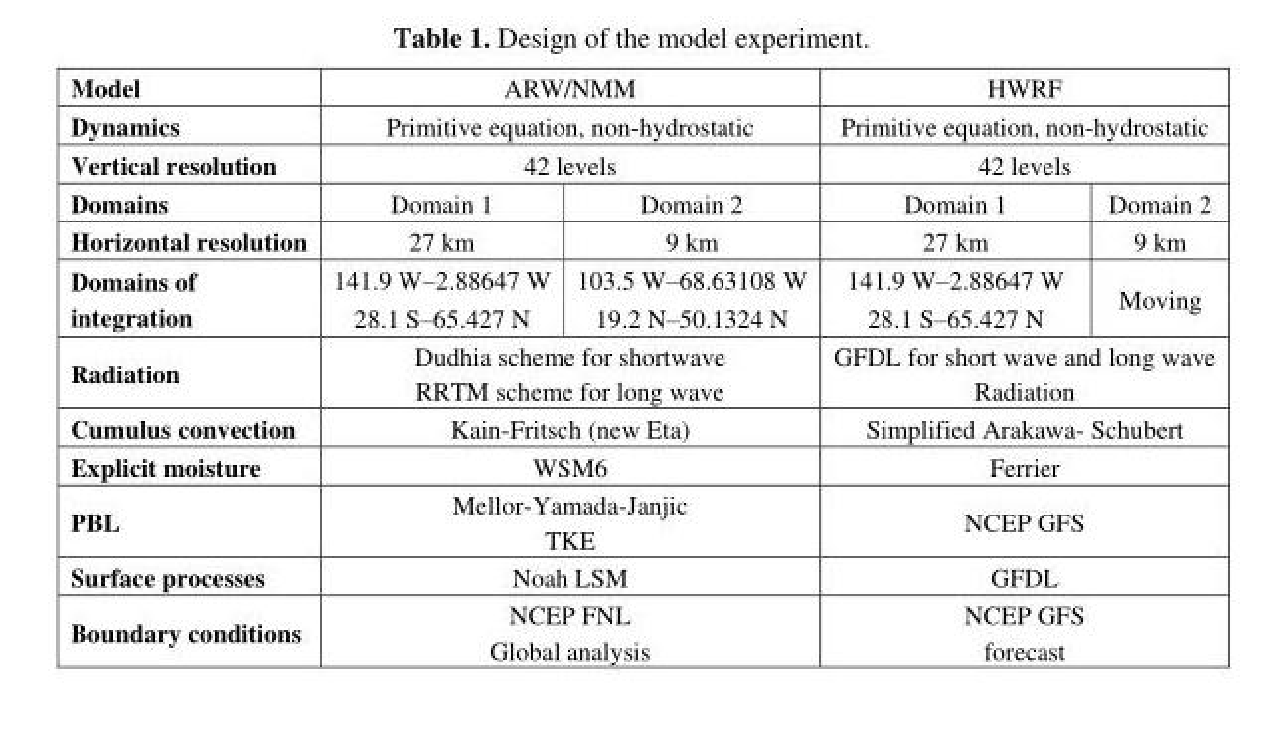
<table><thead><tr><td rowspan="4">Model Dynamics Vertical resolution Domains</td><td rowspan="3" colspan="2">ARW/NMM Primitive equation, non-hydrostatic 42 levels</td><td rowspan="3" colspan="2">HWRF Primitive equation, non-hydrostatic 42 levels</td></tr><tr></tr><tr></tr><tr><td>Domain 1</td><td>Domain 2</td><td>Domain 1</td><td>Domain 2</td></tr></thead><tbody><tr><td>Horizontal resolution</td><td>27 km</td><td>9 km</td><td>27 km</td><td>9 km</td></tr><tr><td>Domains of integration</td><td>141.9 W–2.88647 W 28.1 S–65.427 N</td><td>103.5 W–68.63108 W 19.2 N–50.1324 N</td><td>141.9 W–2.88647 W 28.1 S–65.427 N</td><td>Moving</td></tr><tr><td>Radiation</td><td colspan="2">Dudhia scheme for shortwave RRTM scheme for long wave</td><td colspan="2">GFDL for short wave and long wave Radiation</td></tr><tr><td>Cumulus convection</td><td colspan="2">Kain-Fritsch (new Eta)</td><td colspan="2">Simplified Arakawa- Schubert</td></tr><tr><td>Explicit moisture</td><td colspan="2">WSM6</td><td colspan="2">Ferrier</td></tr><tr><td>PBL</td><td colspan="2">Mellor-Yamada-Janjic TKE</td><td colspan="2">NCEP GFS</td></tr><tr><td>Surface processes</td><td colspan="2">Noah LSM</td><td colspan="2">GFDL</td></tr><tr><td>Boundary conditions</td><td colspan="2">NCEP FNL Global analysis</td><td colspan="2">NCEP GFS forecast</td></tr></tbody></table>